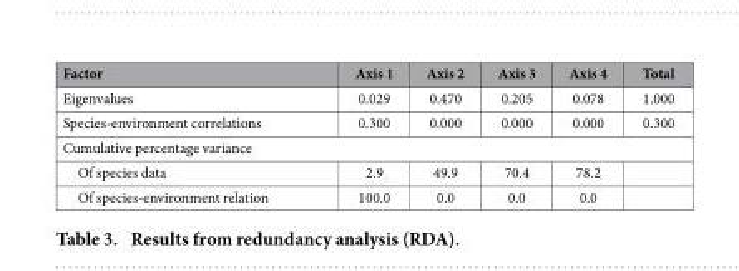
<table><thead><tr><td>Factor</td><td>Axis 1</td><td>Axis 2</td><td>Axis 3</td><td>Axis 4</td><td>Total</td></tr></thead><tbody><tr><td>Eigenvalues</td><td>0.029</td><td>0.470</td><td>0.205</td><td>0.078</td><td>1.000</td></tr><tr><td>Species-environment correlations</td><td>0.300</td><td>0.000</td><td>0.000</td><td>0.000</td><td>0.300</td></tr><tr><td colspan="6">Cumulative percentage variance</td></tr><tr><td>Of species data</td><td>2.9</td><td>49.9</td><td>70.4</td><td>78.2</td><td></td></tr><tr><td>Of species-environment relation</td><td>100.0</td><td>0.0</td><td>0.0</td><td>0.0</td><td></td></tr></tbody></table>